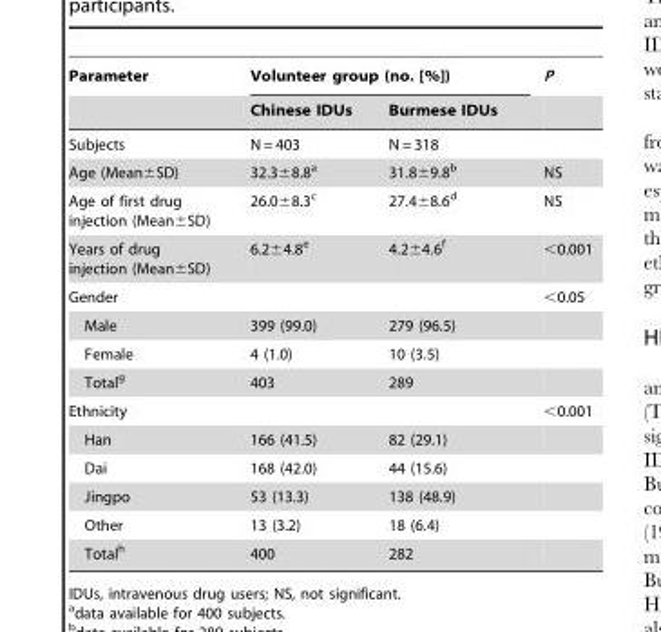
<table><thead><tr><td rowspan="2">Parameter</td><td colspan="2">Volunteer group (no. [%])</td><td rowspan="2">P</td></tr><tr><td>Chinese IDUs</td><td>Burmese IDUs</td></tr></thead><tbody><tr><td>Subjects</td><td>N = 403</td><td>N = 318</td><td></td></tr><tr><td>Age (Mean±SD)</td><td>32.3±8.8<sup>a</sup></td><td>31.8±9.8<sup>b</sup></td><td>NS</td></tr><tr><td>Age of first drug injection (Mean±SD)</td><td>26.0±8.3<sup>c</sup></td><td>27.4±8.6<sup>d</sup></td><td>NS</td></tr><tr><td>Years of drug injection (Mean±SD)</td><td>6.2±4.8<sup>e</sup></td><td>4.2±4.6<sup>f</sup></td><td>&lt;0.001</td></tr><tr><td>Gender</td><td></td><td></td><td>&lt;0.05</td></tr><tr><td>Male</td><td>399 (99.0)</td><td>279 (96.5)</td><td></td></tr><tr><td>Female</td><td>4 (1.0)</td><td>10 (3.5)</td><td></td></tr><tr><td>Total<sup>g</sup></td><td>403</td><td>289</td><td></td></tr><tr><td>Ethnicity</td><td></td><td></td><td>&lt;0.001</td></tr><tr><td>Han</td><td>166 (41.5)</td><td>82 (29.1)</td><td></td></tr><tr><td>Dai</td><td>168 (42.0)</td><td>44 (15.6)</td><td></td></tr><tr><td>Jingpo</td><td>53 (13.3)</td><td>138 (48.9)</td><td></td></tr><tr><td>Other</td><td>13 (3.2)</td><td>18 (6.4)</td><td></td></tr><tr><td>Total<sup>h</sup></td><td>400</td><td>282</td><td></td></tr></tbody></table>